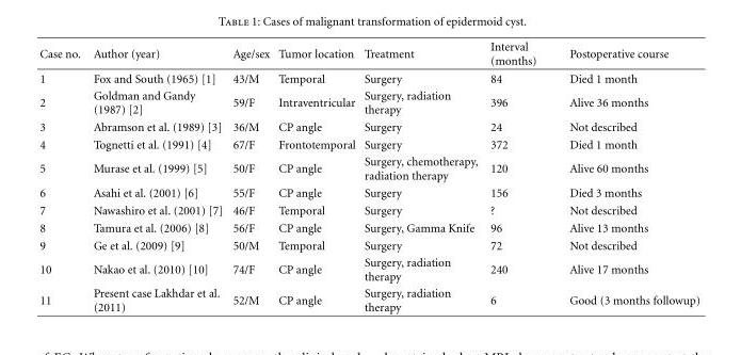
<table><thead><tr><td>Case no.</td><td>Author (year)</td><td>Age/sex</td><td>Tumor location</td><td>Treatment</td><td>Interval (months)</td><td>Postoperative course</td></tr></thead><tbody><tr><td>1</td><td>Fox and South (1965) [1]</td><td>43/M</td><td>Temporal</td><td>Surgery</td><td>84</td><td>Died 1 month</td></tr><tr><td>2</td><td>Goldman and Gandy (1987) [2]</td><td>59/F</td><td>Intraventricular</td><td>Surgery, radiation therapy</td><td>396</td><td>Alive 36 months</td></tr><tr><td>3</td><td>Abramson et al. (1989) [3]</td><td>36/M</td><td>CP angle</td><td>Surgery</td><td>24</td><td>Not described</td></tr><tr><td>4</td><td>Tognetti et al. (1991) [4]</td><td>67/F</td><td>Frontotemporal</td><td>Surgery</td><td>372</td><td>Died 1 month</td></tr><tr><td>5</td><td>Murase et al. (1999) [5]</td><td>50/F</td><td>CP angle</td><td>Surgery, chemotherapy, radiation therapy</td><td>120</td><td>Alive 60 months</td></tr><tr><td>6</td><td>Asahi et al. (2001) [6]</td><td>55/F</td><td>CP angle</td><td>Surgery</td><td>156</td><td>Died 3 months</td></tr><tr><td>7</td><td>Nawashiro et al. (2001) [7]</td><td>46/F</td><td>Temporal</td><td>Surgery</td><td>?</td><td>Not described</td></tr><tr><td>8</td><td>Tamura et al. (2006) [8]</td><td>56/F</td><td>CP angle</td><td>Surgery, Gamma Knife</td><td>96</td><td>Alive 13 months</td></tr><tr><td>9</td><td>Ge et al. (2009) [9]</td><td>50/M</td><td>Temporal</td><td>Surgery</td><td>72</td><td>Not described</td></tr><tr><td>10</td><td>Nakao et al. (2010) [10]</td><td>74/F</td><td>CP angle</td><td>Surgery, radiation therapy</td><td>240</td><td>Alive 17 months</td></tr><tr><td>11</td><td>Present case Lakhdar et al. (2011)</td><td>52/M</td><td>CP angle</td><td>Surgery, radiation therapy</td><td>6</td><td>Good (3 months followup)</td></tr></tbody></table>